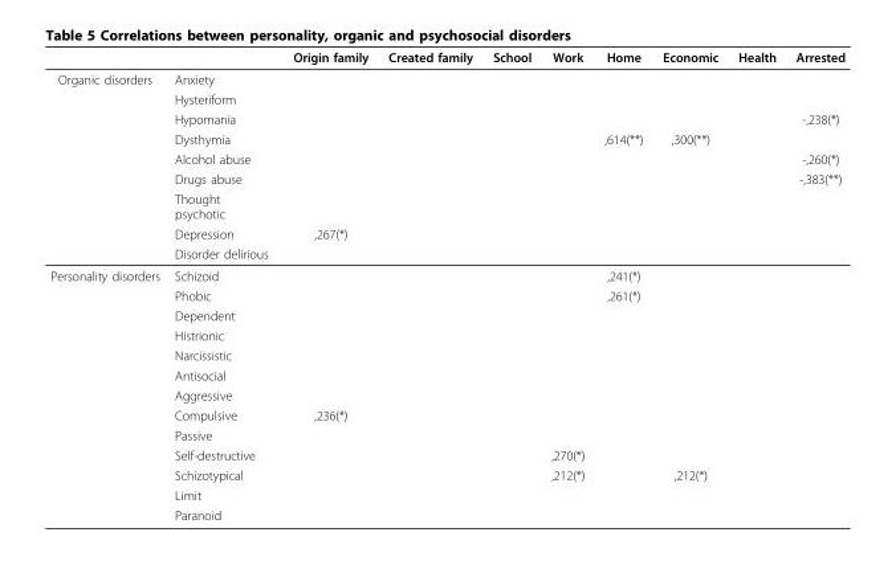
<table><thead><tr><td></td><td></td><td>Origin family</td><td>Created family</td><td>School</td><td>Work</td><td>Home</td><td>Economic</td><td>Health</td><td>Arrested</td></tr></thead><tbody><tr><td rowspan="9">Organic disorders</td><td>Anxiety</td><td></td><td></td><td></td><td></td><td></td><td></td><td></td><td></td></tr><tr><td>Hysteriform</td><td></td><td></td><td></td><td></td><td></td><td></td><td></td><td></td></tr><tr><td>Hypomania</td><td></td><td></td><td></td><td></td><td></td><td></td><td></td><td>-,238(*)</td></tr><tr><td>Dysthymia</td><td></td><td></td><td></td><td></td><td>,614(**)</td><td>,300(**)</td><td></td><td></td></tr><tr><td>Alcohol abuse</td><td></td><td></td><td></td><td></td><td></td><td></td><td></td><td>-,260(*)</td></tr><tr><td>Drugs abuse</td><td></td><td></td><td></td><td></td><td></td><td></td><td></td><td>-,383(**)</td></tr><tr><td>Thought psychotic</td><td></td><td></td><td></td><td></td><td></td><td></td><td></td><td></td></tr><tr><td>Depression</td><td>,267(*)</td><td></td><td></td><td></td><td></td><td></td><td></td><td></td></tr><tr><td>Disorder delirious</td><td></td><td></td><td></td><td></td><td></td><td></td><td></td><td></td></tr><tr><td rowspan="13">Personality disorders</td><td>Schizoid</td><td></td><td></td><td></td><td></td><td>,241(*)</td><td></td><td></td><td></td></tr><tr><td>Phobic</td><td></td><td></td><td></td><td></td><td>,261(*)</td><td></td><td></td><td></td></tr><tr><td>Dependent</td><td></td><td></td><td></td><td></td><td></td><td></td><td></td><td></td></tr><tr><td>Histrionic</td><td></td><td></td><td></td><td></td><td></td><td></td><td></td><td></td></tr><tr><td>Narcissistic</td><td></td><td></td><td></td><td></td><td></td><td></td><td></td><td></td></tr><tr><td>Antisocial</td><td></td><td></td><td></td><td></td><td></td><td></td><td></td><td></td></tr><tr><td>Aggressive</td><td></td><td></td><td></td><td></td><td></td><td></td><td></td><td></td></tr><tr><td>Compulsive</td><td>,236(*)</td><td></td><td></td><td></td><td></td><td></td><td></td><td></td></tr><tr><td>Passive</td><td></td><td></td><td></td><td></td><td></td><td></td><td></td><td></td></tr><tr><td>Self-destructive</td><td></td><td></td><td></td><td>,270(*)</td><td></td><td></td><td></td><td></td></tr><tr><td>Schizotypical</td><td></td><td></td><td></td><td>,212(*)</td><td></td><td>,212(*)</td><td></td><td></td></tr><tr><td>Limit</td><td></td><td></td><td></td><td></td><td></td><td></td><td></td><td></td></tr><tr><td>Paranoid</td><td></td><td></td><td></td><td></td><td></td><td></td><td></td><td></td></tr></tbody></table>